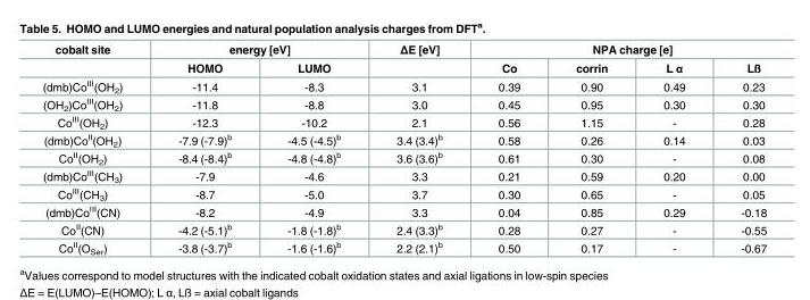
<table><thead><tr><td rowspan="2">cobalt site</td><td colspan="2">energy [eV]</td><td rowspan="2">ΔE [eV]</td><td colspan="4">NPA charge [e]</td></tr><tr><td>HOMO</td><td>LUMO</td><td>Co</td><td>corrin</td><td>L α</td><td>Lß</td></tr></thead><tbody><tr><td>(dmb)Co<sup>III</sup>(OH<sub>2</sub>)</td><td>-11.4</td><td>-8.3</td><td>3.1</td><td>0.39</td><td>0.90</td><td>0.49</td><td>0.23</td></tr><tr><td>(OH<sub>2</sub>)Co<sup>III</sup>(OH<sub>2</sub>)</td><td>-11.8</td><td>-8.8</td><td>3.0</td><td>0.45</td><td>0.95</td><td>0.30</td><td>0.30</td></tr><tr><td>Co<sup>III</sup>(OH<sub>2</sub>)</td><td>-12.3</td><td>-10.2</td><td>2.1</td><td>0.56</td><td>1.15</td><td>-</td><td>0.28</td></tr><tr><td>(dmb)Co<sup>II</sup>(OH<sub>2</sub>)</td><td>-7.9 (-7.9)<sup>b</sup></td><td>-4.5 (-4.5)<sup>b</sup></td><td>3.4 (3.4)<sup>b</sup></td><td>0.58</td><td>0.26</td><td>0.14</td><td>0.03</td></tr><tr><td>Co<sup>II</sup>(OH<sub>2</sub>)</td><td>-8.4 (-8.4)<sup>b</sup></td><td>-4.8 (-4.8)<sup>b</sup></td><td>3.6 (3.6)<sup>b</sup></td><td>0.61</td><td>0.30</td><td>-</td><td>0.08</td></tr><tr><td>(dmb)Co<sup>III</sup>(CH<sub>3</sub>)</td><td>-7.9</td><td>-4.6</td><td>3.3</td><td>0.21</td><td>0.59</td><td>0.20</td><td>0.00</td></tr><tr><td>Co<sup>III</sup>(CH<sub>3</sub>)</td><td>-8.7</td><td>-5.0</td><td>3.7</td><td>0.30</td><td>0.65</td><td>-</td><td>0.05</td></tr><tr><td>(dmb)Co<sup>III</sup>(CN)</td><td>-8.2</td><td>-4.9</td><td>3.3</td><td>0.04</td><td>0.85</td><td>0.29</td><td>-0.18</td></tr><tr><td>Co<sup>II</sup>(CN)</td><td>-4.2 (-5.1)<sup>b</sup></td><td>-1.8 (-1.8)<sup>b</sup></td><td>2.4 (3.3)<sup>b</sup></td><td>0.28</td><td>0.27</td><td>-</td><td>-0.55</td></tr><tr><td>Co<sup>II</sup>(O<sub>Ser</sub>)</td><td>-3.8 (-3.7)<sup>b</sup></td><td>-1.6 (-1.6)<sup>b</sup></td><td>2.2 (2.1)<sup>b</sup></td><td>0.50</td><td>0.17</td><td>-</td><td>-0.67</td></tr></tbody></table>